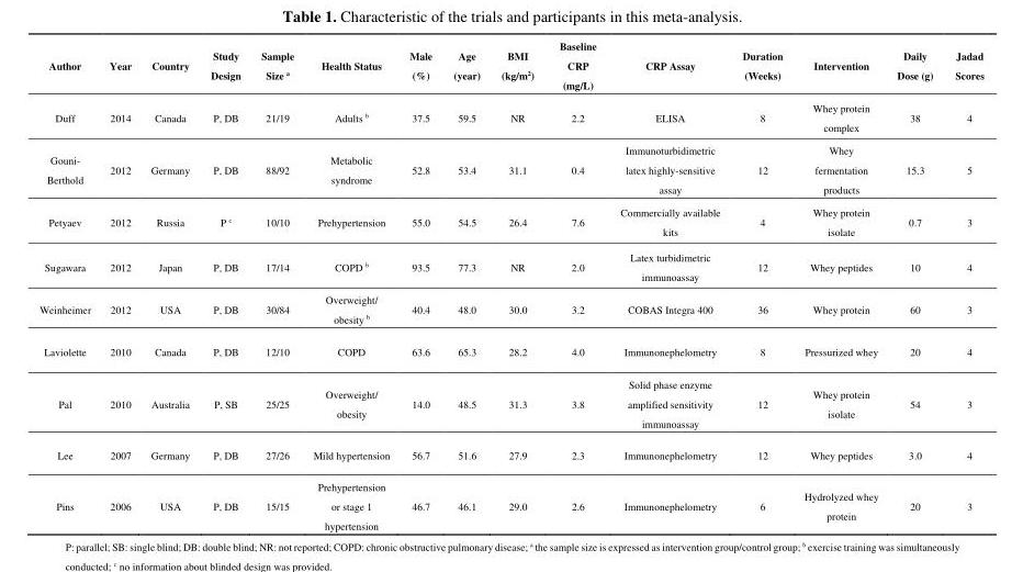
<table><thead><tr><td>Author</td><td>Year</td><td>Country</td><td>Study Design</td><td>Sample Size <sup>a</sup></td><td>Health Status</td><td>Male (%)</td><td>Age (year)</td><td>BMI (kg/m<sup>2</sup>)</td><td>Baseline CRP (mg/L)</td><td>CRP Assay</td><td>Duration (Weeks)</td><td>Intervention</td><td>Daily Dose (g)</td><td>Jadad Scores</td></tr></thead><tbody><tr><td>Duff</td><td>2014</td><td>Canada</td><td>P, DB</td><td>21/19</td><td>Adults <sup>b</sup></td><td>37.5</td><td>59.5</td><td>NR</td><td>2.2</td><td>ELISA</td><td>8</td><td>Whey protein complex</td><td>38</td><td>4</td></tr><tr><td>Gouni- Berthold</td><td>2012</td><td>Germany</td><td>P, DB</td><td>88/92</td><td>Metabolic syndrome</td><td>52.8</td><td>53.4</td><td>31.1</td><td>0.4</td><td>Immunoturbidimetric latex highly-sensitive assay</td><td>12</td><td>Whey fermentation products</td><td>15.3</td><td>5</td></tr><tr><td>Petyaev</td><td>2012</td><td>Russia</td><td>P <sup>c</sup></td><td>10/10</td><td>Prehypertension</td><td>55.0</td><td>54.5</td><td>26.4</td><td>7.6</td><td>Commercially available kits</td><td>4</td><td>Whey protein isolate</td><td>0.7</td><td>3</td></tr><tr><td>Sugawara</td><td>2012</td><td>Japan</td><td>P, DB</td><td>17/14</td><td>COPD <sup>b</sup></td><td>93.5</td><td>77.3</td><td>NR</td><td>2.0</td><td>Latex turbidimetric immunoassay</td><td>12</td><td>Whey peptides</td><td>10</td><td>4</td></tr><tr><td>Weinheimer</td><td>2012</td><td>USA</td><td>P, DB</td><td>30/84</td><td>Overweight/ obesity <sup>b</sup></td><td>40.4</td><td>48.0</td><td>30.0</td><td>3.2</td><td>COBAS Integra 400</td><td>36</td><td>Whey protein</td><td>60</td><td>3</td></tr><tr><td>Laviolette</td><td>2010</td><td>Canada</td><td>P, DB</td><td>12/10</td><td>COPD</td><td>63.6</td><td>65.3</td><td>28.2</td><td>4.0</td><td>Immunonephelometry</td><td>8</td><td>Pressurized whey</td><td>20</td><td>4</td></tr><tr><td>Pal</td><td>2010</td><td>Australia</td><td>P, SB</td><td>25/25</td><td>Overweight/ obesity</td><td>14.0</td><td>48.5</td><td>31.3</td><td>3.8</td><td>Solid phase enzyme amplified sensitivity immunoassay</td><td>12</td><td>Whey protein isolate</td><td>54</td><td>3</td></tr><tr><td>Lee</td><td>2007</td><td>Germany</td><td>P, DB</td><td>27/26</td><td>Mild hypertension</td><td>56.7</td><td>51.6</td><td>27.9</td><td>2.3</td><td>Immunonephelometry</td><td>12</td><td>Whey peptides</td><td>3.0</td><td>4</td></tr><tr><td>Pins</td><td>2006</td><td>USA</td><td>P, DB</td><td>15/15</td><td>Prehypertension or stage 1 hypertension</td><td>46.7</td><td>46.1</td><td>29.0</td><td>2.6</td><td>Immunonephelometry</td><td>6</td><td>Hydrolyzed whey protein</td><td>20</td><td>3</td></tr></tbody></table>